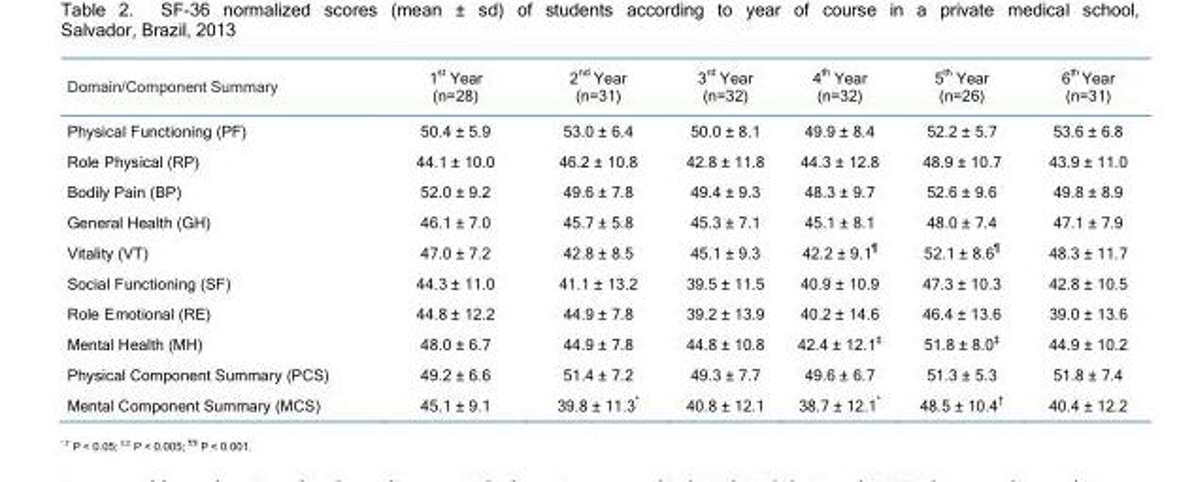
<table><thead><tr><td>Domain/Component Summary</td><td>1<sup>st</sup> Year (n=28)</td><td>2<sup>nd</sup> Year (n=31)</td><td>3<sup>rd</sup> Year (n=32)</td><td>4<sup>th</sup> Year (n=32)</td><td>5<sup>th</sup> Year (n=26)</td><td>6<sup>th</sup> Year (n=31)</td></tr></thead><tbody><tr><td>Physical Functioning (PF)</td><td>50.4 ± 5.9</td><td>53.0 ± 6.4</td><td>50.0 ± 8.1</td><td>49.9 ± 8.4</td><td>52.2 ± 5.7</td><td>53.6 ± 6.8</td></tr><tr><td>Role Physical (RP)</td><td>44.1 ± 10.0</td><td>46.2 ± 10.8</td><td>42.8 ± 11.8</td><td>44.3 ± 12.8</td><td>48.9 ± 10.7</td><td>43.9 ± 11.0</td></tr><tr><td>Bodily Pain (BP)</td><td>52.0 ± 9.2</td><td>49.6 ± 7.8</td><td>49.4 ± 9.3</td><td>48.3 ± 9.7</td><td>52.6 ± 9.6</td><td>49.8 ± 8.9</td></tr><tr><td>General Health (GH)</td><td>46.1 ± 7.0</td><td>45.7 ± 5.8</td><td>45.3 ± 7.1</td><td>45.1 ± 8.1</td><td>48.0 ± 7.4</td><td>47.1 ± 7.9</td></tr><tr><td>Vitality (VT)</td><td>47.0 ± 7.2</td><td>42.8 ± 8.5</td><td>45.1 ± 9.3</td><td>42.2 ± 9.1<sup>¶</sup></td><td>52.1 ± 8.6<sup>¶</sup></td><td>48.3 ± 11.7</td></tr><tr><td>Social Functioning (SF)</td><td>44.3 ± 11.0</td><td>41.1 ± 13.2</td><td>39.5 ± 11.5</td><td>40.9 ± 10.9</td><td>47.3 ± 10.3</td><td>42.8 ± 10.5</td></tr><tr><td>Role Emotional (RE)</td><td>44.8 ± 12.2</td><td>44.9 ± 7.8</td><td>39.2 ± 13.9</td><td>40.2 ± 14.6</td><td>46.4 ± 13.6</td><td>39.0 ± 13.6</td></tr><tr><td>Mental Health (MH)</td><td>48.0 ± 6.7</td><td>44.9 ± 7.8</td><td>44.8 ± 10.8</td><td>42.4 ± 12.1<sup>‡</sup></td><td>51.8 ± 8.0<sup>‡</sup></td><td>44.9 ± 10.2</td></tr><tr><td>Physical Component Summary (PCS)</td><td>49.2 ± 6.6</td><td>51.4 ± 7.2</td><td>49.3 ± 7.7</td><td>49.6 ± 6.7</td><td>51.3 ± 5.3</td><td>51.8 ± 7.4</td></tr><tr><td>Mental Component Summary (MCS)</td><td>45.1 ± 9.1</td><td>39.8 ± 11.3*</td><td>40.8 ± 12.1</td><td>38.7 ± 12.1*</td><td>48.5 ± 10.4<sup>†</sup></td><td>40.4 ± 12.2</td></tr></tbody></table>